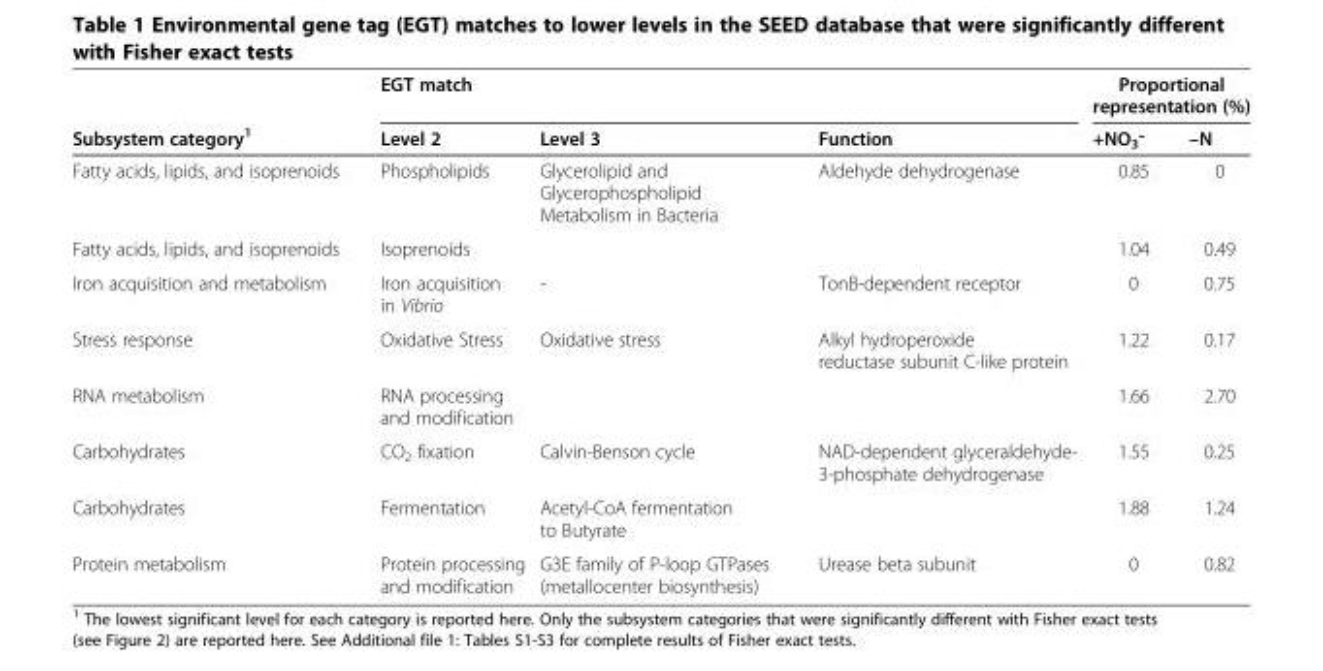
<table><thead><tr><td rowspan="2">Subsystem category<sup>1</sup></td><td colspan="3">EGT match</td><td colspan="2">Proportional representation (%)</td></tr><tr><td>Level 2</td><td>Level 3</td><td>Function</td><td>+NO<sub>3</sub>-</td><td>–N</td></tr></thead><tbody><tr><td>Fatty acids, lipids, and isoprenoids</td><td>Phospholipids</td><td>Glycerolipid and Glycerophospholipid Metabolism in Bacteria</td><td>Aldehyde dehydrogenase</td><td>0.85</td><td>0</td></tr><tr><td>Fatty acids, lipids, and isoprenoids</td><td>Isoprenoids</td><td></td><td></td><td>1.04</td><td>0.49</td></tr><tr><td>Iron acquisition and metabolism</td><td>Iron acquisition in Vibrio</td><td>-</td><td>TonB-dependent receptor</td><td>0</td><td>0.75</td></tr><tr><td>Stress response</td><td>Oxidative Stress</td><td>Oxidative stress</td><td>Alkyl hydroperoxide reductase subunit C-like protein</td><td>1.22</td><td>0.17</td></tr><tr><td>RNA metabolism</td><td>RNA processing and modification</td><td></td><td></td><td>1.66</td><td>2.70</td></tr><tr><td>Carbohydrates</td><td>CO<sub>2</sub> fixation</td><td>Calvin-Benson cycle</td><td>NAD-dependent glyceraldehyde- 3-phosphate dehydrogenase</td><td>1.55</td><td>0.25</td></tr><tr><td>Carbohydrates</td><td>Fermentation</td><td>Acetyl-CoA fermentation to Butyrate</td><td></td><td>1.88</td><td>1.24</td></tr><tr><td>Protein metabolism</td><td>Protein processing and modification</td><td>G3E family of P-loop GTPases (metallocenter biosynthesis)</td><td>Urease beta subunit</td><td>0</td><td>0.82</td></tr></tbody></table>